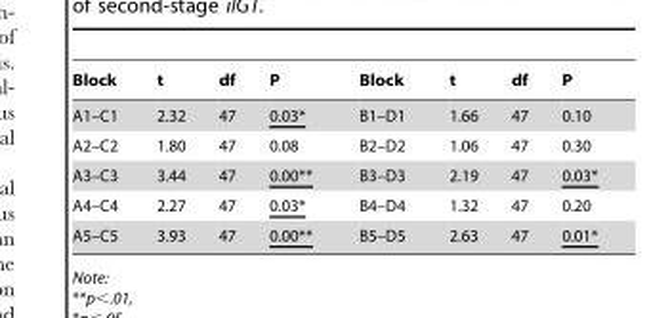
<table><thead><tr><td>Block</td><td>t</td><td>df</td><td>P</td><td>Block</td><td>t</td><td>df</td><td>P</td></tr></thead><tbody><tr><td>A1–C1</td><td>2.32</td><td>47</td><td>0.03*</td><td>B1–D1</td><td>1.66</td><td>47</td><td>0.10</td></tr><tr><td>A2–C2</td><td>1.80</td><td>47</td><td>0.08</td><td>B2–D2</td><td>1.06</td><td>47</td><td>0.30</td></tr><tr><td>A3–C3</td><td>3.44</td><td>47</td><td>0.00**</td><td>B3–D3</td><td>2.19</td><td>47</td><td>0.03*</td></tr><tr><td>A4–C4</td><td>2.27</td><td>47</td><td>0.03*</td><td>B4–D4</td><td>1.32</td><td>47</td><td>0.20</td></tr><tr><td>A5–C5</td><td>3.93</td><td>47</td><td>0.00**</td><td>B5–D5</td><td>2.63</td><td>47</td><td>0.01*</td></tr></tbody></table>